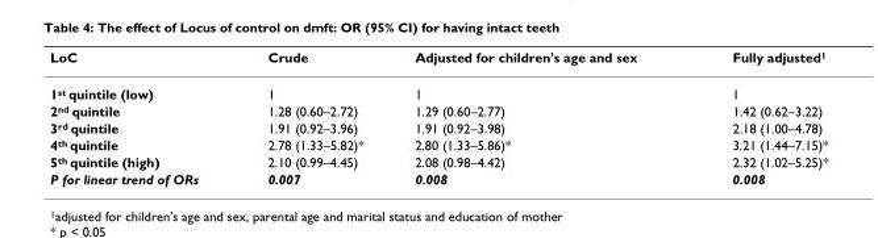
<table><thead><tr><td>LoC</td><td>Crude</td><td>Adjusted for children&#x27;s age and sex</td><td>Fully adjusted<sup>1</sup></td></tr></thead><tbody><tr><td>1<sup>st</sup> quintile (low)</td><td>1</td><td>1</td><td>1</td></tr><tr><td>2<sup>nd</sup> quintile</td><td>1.28 (0.60–2.72)</td><td>1.29 (0.60–2.77)</td><td>1.42 (0.62–3.22)</td></tr><tr><td>3<sup>rd</sup> quintile</td><td>1.91 (0.92–3.96)</td><td>1.91 (0.92–3.98)</td><td>2.18 (1.00–4.78)</td></tr><tr><td>4<sup>th</sup> quintile</td><td>2.78 (1.33–5.82)*</td><td>2.80 (1.33–5.86)*</td><td>3.21 (1.44–7.15)*</td></tr><tr><td>5<sup>th</sup> quintile (high)</td><td>2.10 (0.99–4.45)</td><td>2.08 (0.98–4.42)</td><td>2.32 (1.02–5.25)*</td></tr><tr><td>P for linear trend of ORs</td><td>0.007</td><td>0.008</td><td>0.008</td></tr></tbody></table>